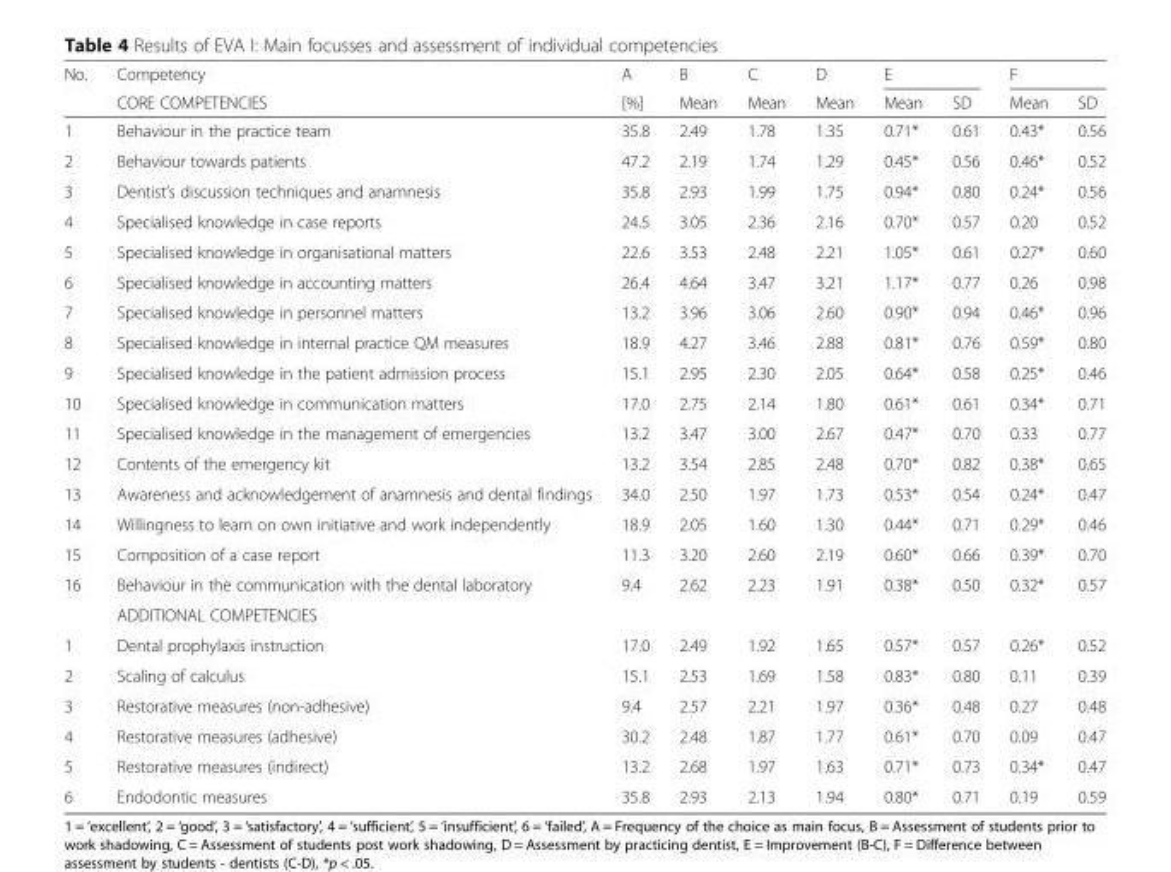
<table><thead><tr><td rowspan="2">No.</td><td rowspan="2">Competency CORE COMPETENCIES</td><td rowspan="2">A [%]</td><td rowspan="2">B Mean</td><td rowspan="2">C Mean</td><td rowspan="2">D Mean</td><td colspan="2">E</td><td colspan="2">F</td></tr><tr><td>Mean</td><td>SD</td><td>Mean</td><td>SD</td></tr></thead><tbody><tr><td>1</td><td>Behaviour in the practice team</td><td>35.8</td><td>2.49</td><td>1.78</td><td>1.35</td><td>0.71*</td><td>0.61</td><td>0.43*</td><td>0.56</td></tr><tr><td>2</td><td>Behaviour towards patients</td><td>47.2</td><td>2.19</td><td>1.74</td><td>1.29</td><td>0.45*</td><td>0.56</td><td>0.46*</td><td>0.52</td></tr><tr><td>3</td><td>Dentist’s discussion techniques and anamnesis</td><td>35.8</td><td>2.93</td><td>1.99</td><td>1.75</td><td>0.94*</td><td>0.80</td><td>0.24*</td><td>0.56</td></tr><tr><td>4</td><td>Specialised knowledge in case reports</td><td>24.5</td><td>3.05</td><td>2.36</td><td>2.16</td><td>0.70*</td><td>0.57</td><td>0.20</td><td>0.52</td></tr><tr><td>5</td><td>Specialised knowledge in organisational matters</td><td>22.6</td><td>3.53</td><td>2.48</td><td>2.21</td><td>1.05*</td><td>0.61</td><td>0.27*</td><td>0.60</td></tr><tr><td>6</td><td>Specialised knowledge in accounting matters</td><td>26.4</td><td>4.64</td><td>3.47</td><td>3.21</td><td>1.17*</td><td>0.77</td><td>0.26</td><td>0.98</td></tr><tr><td>7</td><td>Specialised knowledge in personnel matters</td><td>13.2</td><td>3.96</td><td>3.06</td><td>2.60</td><td>0.90*</td><td>0.94</td><td>0.46*</td><td>0.96</td></tr><tr><td>8</td><td>Specialised knowledge in internal practice QM measures</td><td>18.9</td><td>4.27</td><td>3.46</td><td>2.88</td><td>0.81*</td><td>0.76</td><td>0.59*</td><td>0.80</td></tr><tr><td>9</td><td>Specialised knowledge in the patient admission process</td><td>15.1</td><td>2.95</td><td>2.30</td><td>2.05</td><td>0.64*</td><td>0.58</td><td>0.25*</td><td>0.46</td></tr><tr><td>10</td><td>Specialised knowledge in communication matters</td><td>17.0</td><td>2.75</td><td>2.14</td><td>1.80</td><td>0.61*</td><td>0.61</td><td>0.34*</td><td>0.71</td></tr><tr><td>11</td><td>Specialised knowledge in the management of emergencies</td><td>13.2</td><td>3.47</td><td>3.00</td><td>2.67</td><td>0.47*</td><td>0.70</td><td>0.33</td><td>0.77</td></tr><tr><td>12</td><td>Contents of the emergency kit</td><td>13.2</td><td>3.54</td><td>2.85</td><td>2.48</td><td>0.70*</td><td>0.82</td><td>0.38*</td><td>0.65</td></tr><tr><td>13</td><td>Awareness and acknowledgement of anamnesis and dental findings</td><td>34.0</td><td>2.50</td><td>1.97</td><td>1.73</td><td>0.53*</td><td>0.54</td><td>0.24*</td><td>0.47</td></tr><tr><td>14</td><td>Willingness to learn on own initiative and work independently</td><td>18.9</td><td>2.05</td><td>1.60</td><td>1.30</td><td>0.44*</td><td>0.71</td><td>0.29*</td><td>0.46</td></tr><tr><td>15</td><td>Composition of a case report</td><td>11.3</td><td>3.20</td><td>2.60</td><td>2.19</td><td>0.60*</td><td>0.66</td><td>0.39*</td><td>0.70</td></tr><tr><td rowspan="2">16</td><td>Behaviour in the communication with the dental laboratory</td><td>9.4</td><td>2.62</td><td>2.23</td><td>1.91</td><td>0.38*</td><td>0.50</td><td>0.32*</td><td>0.57</td></tr><tr><td>ADDITIONAL COMPETENCIES</td><td></td><td></td><td></td><td></td><td></td><td></td><td></td><td></td></tr><tr><td>1</td><td>Dental prophylaxis instruction</td><td>17.0</td><td>2.49</td><td>1.92</td><td>1.65</td><td>0.57*</td><td>0.57</td><td>0.26*</td><td>0.52</td></tr><tr><td>2</td><td>Scaling of calculus</td><td>15.1</td><td>2.53</td><td>1.69</td><td>1.58</td><td>0.83*</td><td>0.80</td><td>0.11</td><td>0.39</td></tr><tr><td>3</td><td>Restorative measures (non-adhesive)</td><td>9.4</td><td>2.57</td><td>2.21</td><td>1.97</td><td>0.36*</td><td>0.48</td><td>0.27</td><td>0.48</td></tr><tr><td>4</td><td>Restorative measures (adhesive)</td><td>30.2</td><td>2.48</td><td>1.87</td><td>1.77</td><td>0.61*</td><td>0.70</td><td>0.09</td><td>0.47</td></tr><tr><td>5</td><td>Restorative measures (indirect)</td><td>13.2</td><td>2.68</td><td>1.97</td><td>1.63</td><td>0.71*</td><td>0.73</td><td>0.34*</td><td>0.47</td></tr><tr><td>6</td><td>Endodontic measures</td><td>35.8</td><td>2.93</td><td>2.13</td><td>1.94</td><td>0.80*</td><td>0.71</td><td>0.19</td><td>0.59</td></tr></tbody></table>